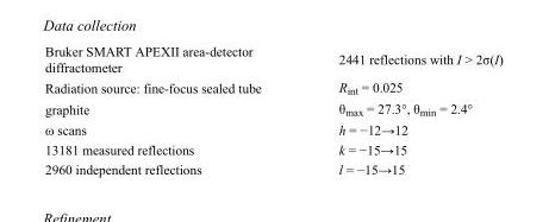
<table><tbody><tr><td>Bruker SMART APEXII area-detector diffractometer</td><td>2441 reflections with I &gt; 2σ(I)</td></tr><tr><td>Radiation source: fine-focus sealed tube</td><td>R<sub>int</sub> = 0.025</td></tr><tr><td>graphite</td><td>θ<sub>max</sub> = 27.3°, θ<sub>min</sub> = 2.4°</td></tr><tr><td>ω scans</td><td>h = −12→12</td></tr><tr><td>13181 measured reflections</td><td>k = −15→15</td></tr><tr><td>2960 independent reflections</td><td>l = −15→15</td></tr></tbody></table>